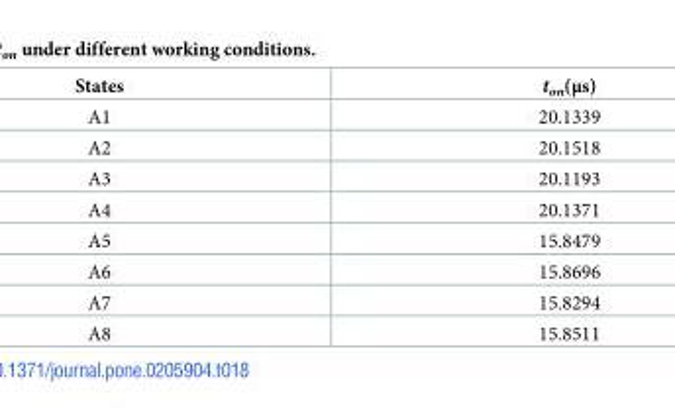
<table><thead><tr><td>States</td><td>t<sub>on</sub>(μs)</td></tr></thead><tbody><tr><td>A1</td><td>20.1339</td></tr><tr><td>A2</td><td>20.1518</td></tr><tr><td>A3</td><td>20.1193</td></tr><tr><td>A4</td><td>20.1371</td></tr><tr><td>A5</td><td>15.8479</td></tr><tr><td>A6</td><td>15.8696</td></tr><tr><td>A7</td><td>15.8294</td></tr><tr><td>A8</td><td>15.8511</td></tr></tbody></table>